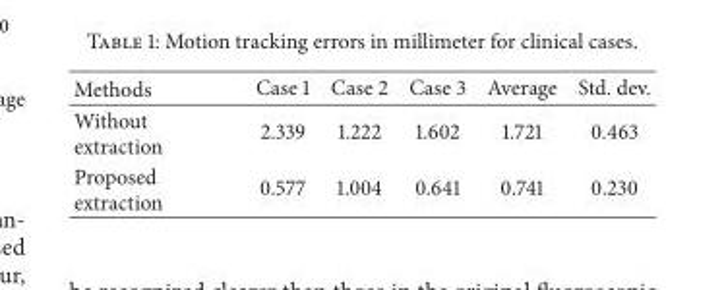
<table><thead><tr><td>Methods</td><td>Case 1</td><td>Case 2</td><td>Case 3</td><td>Average</td><td>Std. dev.</td></tr></thead><tbody><tr><td>Without extraction</td><td>2.339</td><td>1.222</td><td>1.602</td><td>1.721</td><td>0.463</td></tr><tr><td>Proposed extraction</td><td>0.577</td><td>1.004</td><td>0.641</td><td>0.741</td><td>0.230</td></tr></tbody></table>